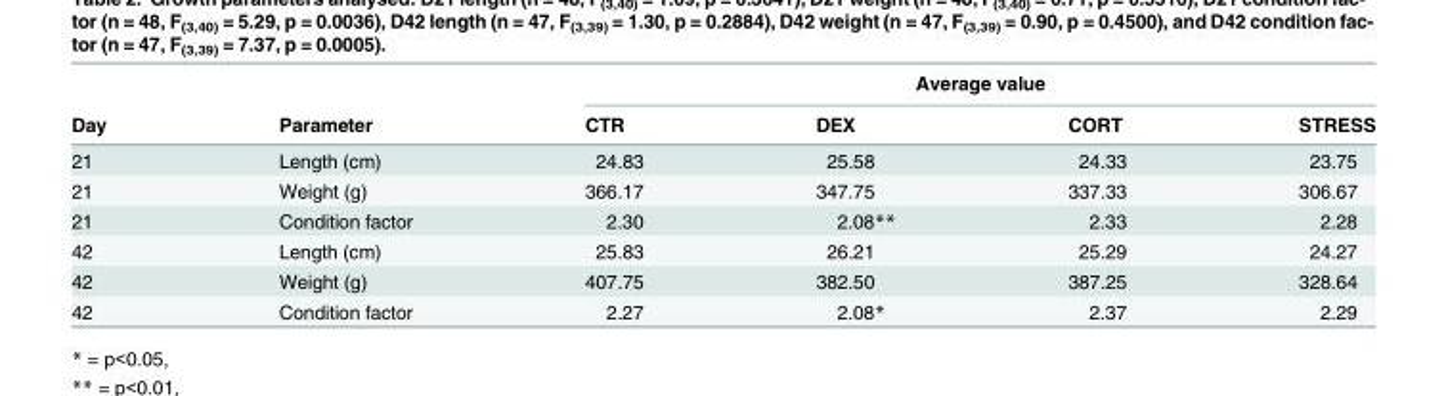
<table><thead><tr><td rowspan="2">Day</td><td rowspan="2">Parameter</td><td colspan="4">Average value</td></tr><tr><td>CTR</td><td>DEX</td><td>CORT</td><td>STRESS</td></tr></thead><tbody><tr><td>21</td><td>Length (cm)</td><td>24.83</td><td>25.58</td><td>24.33</td><td>23.75</td></tr><tr><td>21</td><td>Weight (g)</td><td>366.17</td><td>347.75</td><td>337.33</td><td>306.67</td></tr><tr><td>21</td><td>Condition factor</td><td>2.30</td><td>2.08**</td><td>2.33</td><td>2.28</td></tr><tr><td>42</td><td>Length (cm)</td><td>25.83</td><td>26.21</td><td>25.29</td><td>24.27</td></tr><tr><td>42</td><td>Weight (g)</td><td>407.75</td><td>382.50</td><td>387.25</td><td>328.64</td></tr><tr><td>42</td><td>Condition factor</td><td>2.27</td><td>2.08*</td><td>2.37</td><td>2.29</td></tr></tbody></table>